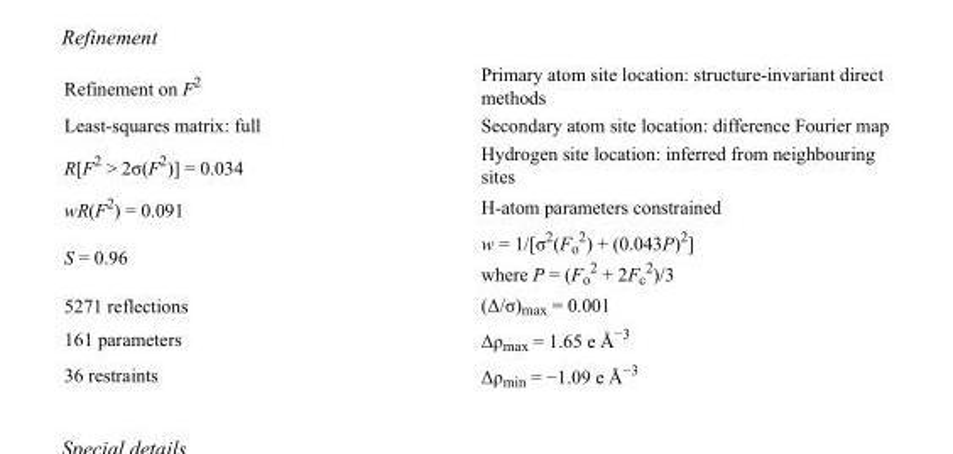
<table><tbody><tr><td>Refinement on F<sup>2</sup></td><td>Primary atom site location: structure-invariant direct methods</td></tr><tr><td>Least-squares matrix: full</td><td>Secondary atom site location: difference Fourier map</td></tr><tr><td>R[F<sup>2</sup> &gt; 2σ(F<sup>2</sup>)] = 0.034</td><td>Hydrogen site location: inferred from neighbouring sites</td></tr><tr><td>wR(F<sup>2</sup>) = 0.091</td><td>H-atom parameters constrained</td></tr><tr><td>S = 0.96</td><td>w = 1/[σ<sup>2</sup>(F<sub>o</sub> <sup>2</sup>) + (0.043P)<sup>2</sup>] where P = (F<sub>o</sub> <sup>2</sup> + 2F<sub>c</sub> <sup>2</sup>)/3</td></tr><tr><td>5271 reflections</td><td>(Δ/σ)<sub>max</sub> = 0.001</td></tr><tr><td>161 parameters</td><td>Δρ<sub>max</sub> = 1.65 e Å<sup>−3</sup></td></tr><tr><td>36 restraints</td><td>Δρ<sub>min</sub> = −1.09 e Å<sup>−3</sup></td></tr></tbody></table>